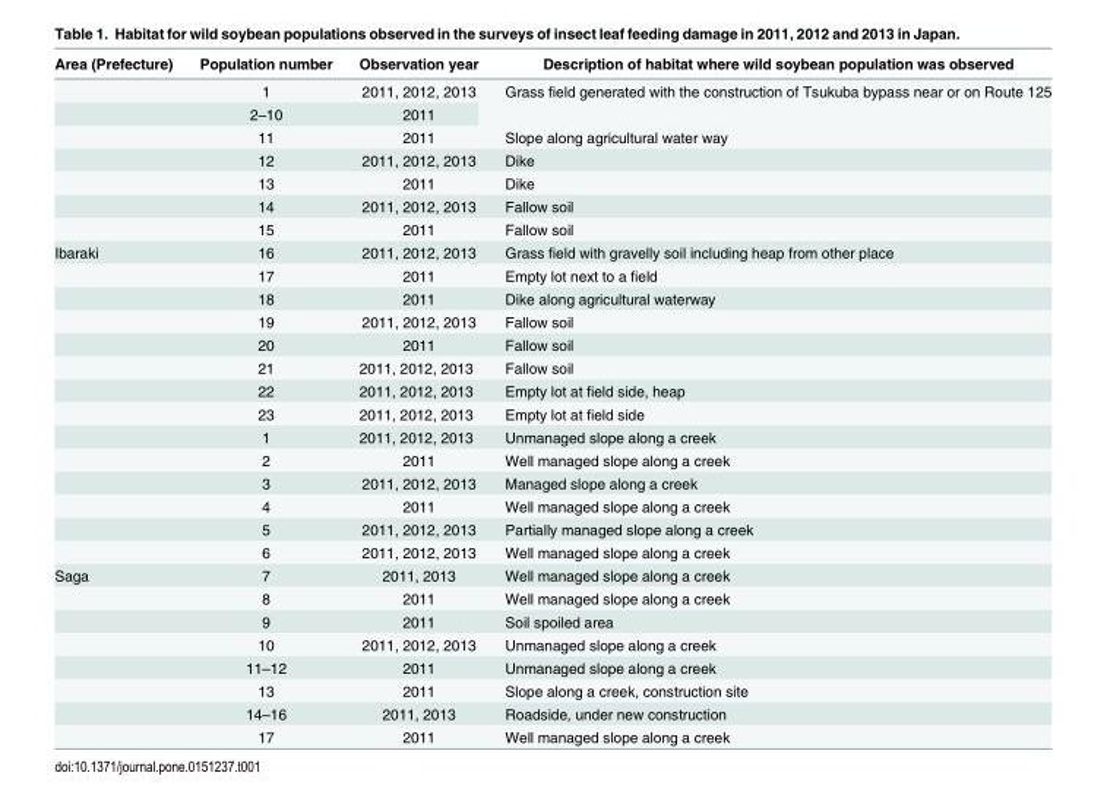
<table><thead><tr><td>Area (Prefecture)</td><td>Population number</td><td>Observation year</td><td>Description of habitat where wild soybean population was observed</td></tr></thead><tbody><tr><td></td><td>1</td><td>2011, 2012, 2013</td><td rowspan="2">Grass field generated with the construction of Tsukuba bypass near or on Route 125</td></tr><tr><td></td><td>2–10</td><td>2011</td></tr><tr><td></td><td>11</td><td>2011</td><td>Slope along agricultural water way</td></tr><tr><td></td><td>12</td><td>2011, 2012, 2013</td><td>Dike</td></tr><tr><td></td><td>13</td><td>2011</td><td>Dike</td></tr><tr><td></td><td>14</td><td>2011, 2012, 2013</td><td>Fallow soil</td></tr><tr><td></td><td>15</td><td>2011</td><td>Fallow soil</td></tr><tr><td rowspan="14">Ibaraki</td><td>16</td><td>2011, 2012, 2013</td><td>Grass field with gravelly soil including heap from other place</td></tr><tr><td>17</td><td>2011</td><td>Empty lot next to a field</td></tr><tr><td>18</td><td>2011</td><td>Dike along agricultural waterway</td></tr><tr><td>19</td><td>2011, 2012, 2013</td><td>Fallow soil</td></tr><tr><td>20</td><td>2011</td><td>Fallow soil</td></tr><tr><td>21</td><td>2011, 2012, 2013</td><td>Fallow soil</td></tr><tr><td>22</td><td>2011, 2012, 2013</td><td>Empty lot at field side, heap</td></tr><tr><td>23</td><td>2011, 2012, 2013</td><td>Empty lot at field side</td></tr><tr><td>1</td><td>2011, 2012, 2013</td><td>Unmanaged slope along a creek</td></tr><tr><td>2</td><td>2011</td><td>Well managed slope along a creek</td></tr><tr><td>3</td><td>2011, 2012, 2013</td><td>Managed slope along a creek</td></tr><tr><td>4</td><td>2011</td><td>Well managed slope along a creek</td></tr><tr><td>5</td><td>2011, 2012, 2013</td><td>Partially managed slope along a creek</td></tr><tr><td>6</td><td>2011, 2012, 2013</td><td>Well managed slope along a creek</td></tr><tr><td rowspan="8">Saga</td><td>7</td><td>2011, 2013</td><td>Well managed slope along a creek</td></tr><tr><td>8</td><td>2011</td><td>Well managed slope along a creek</td></tr><tr><td>9</td><td>2011</td><td>Soil spoiled area</td></tr><tr><td>10</td><td>2011, 2012, 2013</td><td>Unmanaged slope along a creek</td></tr><tr><td>11–12</td><td>2011</td><td>Unmanaged slope along a creek</td></tr><tr><td>13</td><td>2011</td><td>Slope along a creek, construction site</td></tr><tr><td>14–16</td><td>2011, 2013</td><td>Roadside, under new construction</td></tr><tr><td>17</td><td>2011</td><td>Well managed slope along a creek</td></tr></tbody></table>